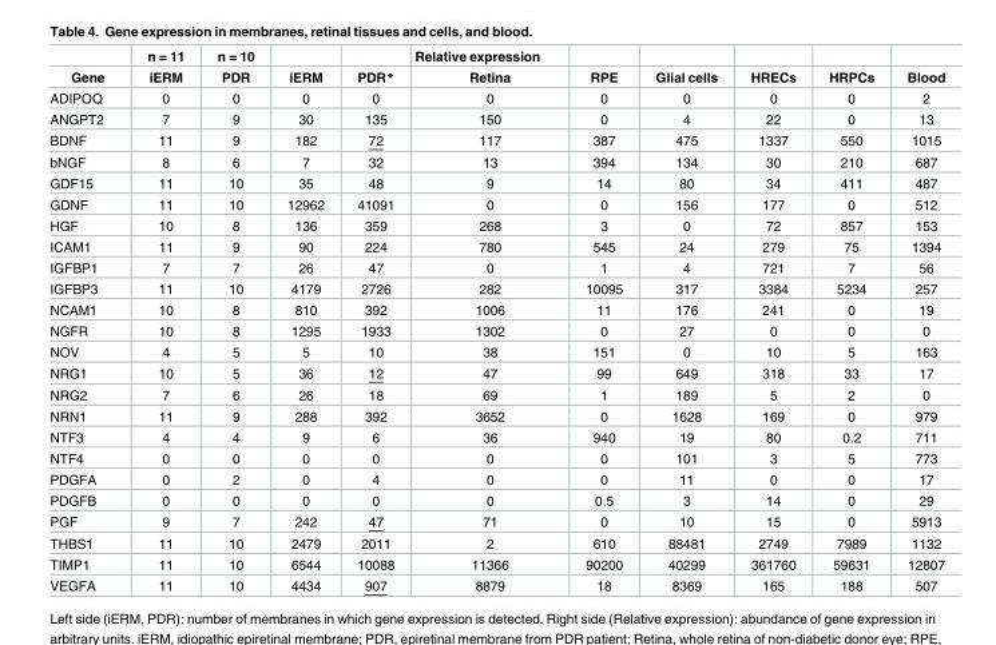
<table><thead><tr><td rowspan="2">Gene</td><td rowspan="2">n = 11 iERM</td><td rowspan="2">n = 10 PDR</td><td rowspan="2">iERM</td><td rowspan="2">PDR*</td><td rowspan="2">Relative expression Retina</td><td rowspan="2">RPE</td><td rowspan="2">Glial cells</td><td rowspan="2">HRECs</td><td rowspan="2">HRPCs</td><td rowspan="2">Blood</td></tr><tr></tr></thead><tbody><tr><td>ADIPOQ</td><td>0</td><td>0</td><td>0</td><td>0</td><td>0</td><td>0</td><td>0</td><td>0</td><td>0</td><td>2</td></tr><tr><td>ANGPT2</td><td>7</td><td>9</td><td>30</td><td>135</td><td>150</td><td>0</td><td>4</td><td>22</td><td>0</td><td>13</td></tr><tr><td>BDNF</td><td>11</td><td>9</td><td>182</td><td>72</td><td>117</td><td>387</td><td>475</td><td>1337</td><td>550</td><td>1015</td></tr><tr><td>bNGF</td><td>8</td><td>6</td><td>7</td><td>32</td><td>13</td><td>394</td><td>134</td><td>30</td><td>210</td><td>687</td></tr><tr><td>GDF15</td><td>11</td><td>10</td><td>35</td><td>48</td><td>9</td><td>14</td><td>80</td><td>34</td><td>411</td><td>487</td></tr><tr><td>GDNF</td><td>11</td><td>10</td><td>12962</td><td>41091</td><td>0</td><td>0</td><td>156</td><td>177</td><td>0</td><td>512</td></tr><tr><td>HGF</td><td>10</td><td>8</td><td>136</td><td>359</td><td>268</td><td>3</td><td>0</td><td>72</td><td>857</td><td>153</td></tr><tr><td>ICAM1</td><td>11</td><td>9</td><td>90</td><td>224</td><td>780</td><td>545</td><td>24</td><td>279</td><td>75</td><td>1394</td></tr><tr><td>IGFBP1</td><td>7</td><td>7</td><td>26</td><td>47</td><td>0</td><td>1</td><td>4</td><td>721</td><td>7</td><td>56</td></tr><tr><td>IGFBP3</td><td>11</td><td>10</td><td>4179</td><td>2726</td><td>282</td><td>10095</td><td>317</td><td>3384</td><td>5234</td><td>257</td></tr><tr><td>NCAM1</td><td>10</td><td>8</td><td>810</td><td>392</td><td>1006</td><td>11</td><td>176</td><td>241</td><td>0</td><td>19</td></tr><tr><td>NGFR</td><td>10</td><td>8</td><td>1295</td><td>1933</td><td>1302</td><td>0</td><td>27</td><td>0</td><td>0</td><td>0</td></tr><tr><td>NOV</td><td>4</td><td>5</td><td>5</td><td>10</td><td>38</td><td>151</td><td>0</td><td>10</td><td>5</td><td>163</td></tr><tr><td>NRG1</td><td>10</td><td>5</td><td>36</td><td>12</td><td>47</td><td>99</td><td>649</td><td>318</td><td>33</td><td>17</td></tr><tr><td>NRG2</td><td>7</td><td>6</td><td>26</td><td>18</td><td>69</td><td>1</td><td>189</td><td>5</td><td>2</td><td>0</td></tr><tr><td>NRN1</td><td>11</td><td>9</td><td>288</td><td>392</td><td>3652</td><td>0</td><td>1628</td><td>169</td><td>0</td><td>979</td></tr><tr><td>NTF3</td><td>4</td><td>4</td><td>9</td><td>6</td><td>36</td><td>940</td><td>19</td><td>80</td><td>0.2</td><td>711</td></tr><tr><td>NTF4</td><td>0</td><td>0</td><td>0</td><td>0</td><td>0</td><td>0</td><td>101</td><td>3</td><td>5</td><td>773</td></tr><tr><td>PDGFA</td><td>0</td><td>2</td><td>0</td><td>4</td><td>0</td><td>0</td><td>11</td><td>0</td><td>0</td><td>17</td></tr><tr><td>PDGFB</td><td>0</td><td>0</td><td>0</td><td>0</td><td>0</td><td>0.5</td><td>3</td><td>14</td><td>0</td><td>29</td></tr><tr><td>PGF</td><td>9</td><td>7</td><td>242</td><td>47</td><td>71</td><td>0</td><td>10</td><td>15</td><td>0</td><td>5913</td></tr><tr><td>THBS1</td><td>11</td><td>10</td><td>2479</td><td>2011</td><td>2</td><td>610</td><td>88481</td><td>2749</td><td>7989</td><td>1132</td></tr><tr><td>TIMP1</td><td>11</td><td>10</td><td>6544</td><td>10088</td><td>11366</td><td>90200</td><td>40299</td><td>361760</td><td>59631</td><td>12807</td></tr><tr><td>VEGFA</td><td>11</td><td>10</td><td>4434</td><td>907</td><td>8879</td><td>18</td><td>8369</td><td>165</td><td>188</td><td>507</td></tr></tbody></table>